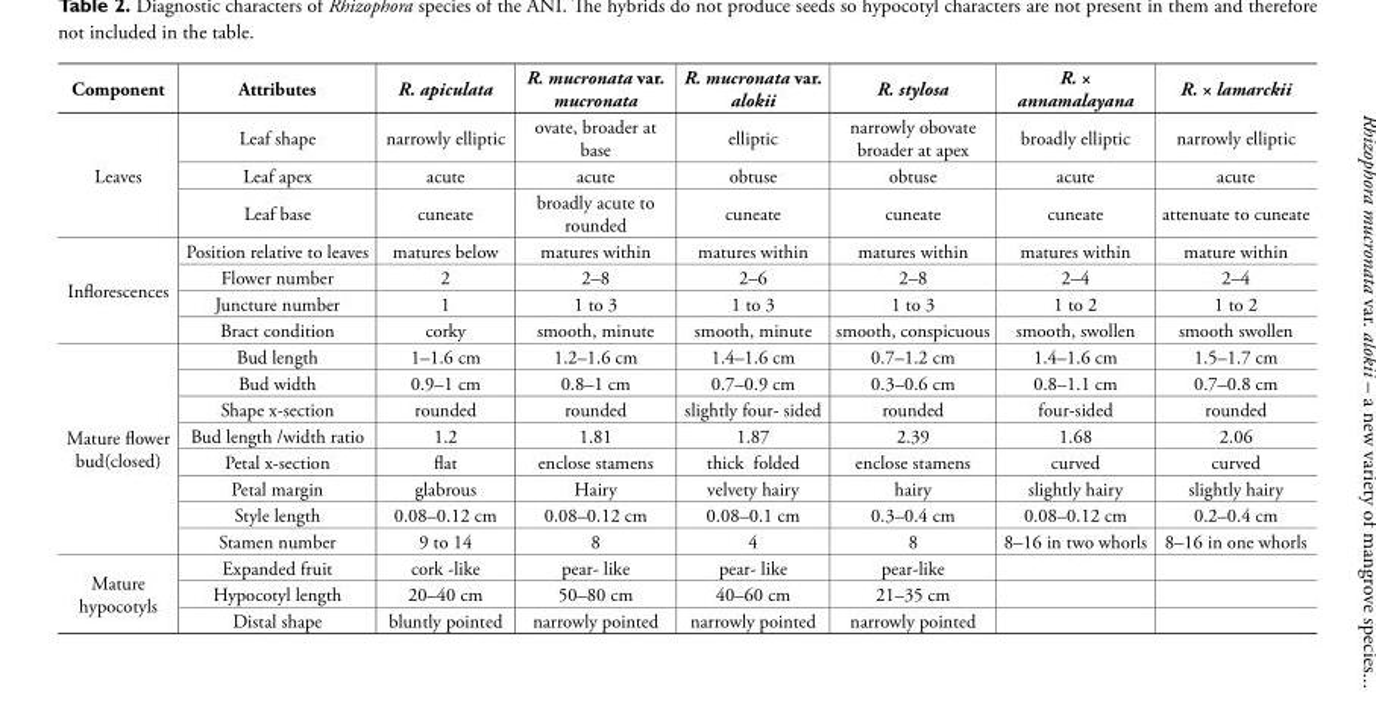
<table><thead><tr><td>Component</td><td>Attributes</td><td>R. apiculata</td><td>R. mucronata var. mucronata</td><td>R. mucronata var. alokii</td><td>R. stylosa</td><td>R. × annamalayana</td><td>R. × lamarckii</td></tr></thead><tbody><tr><td rowspan="3">Leaves</td><td>Leaf shape</td><td>narrowly elliptic</td><td>ovate, broader at base</td><td>elliptic</td><td>narrowly obovate broader at apex</td><td>broadly elliptic</td><td>narrowly elliptic</td></tr><tr><td>Leaf apex</td><td>acute</td><td>acute</td><td>obtuse</td><td>obtuse</td><td>acute</td><td>acute</td></tr><tr><td>Leaf base</td><td>cuneate</td><td>broadly acute to rounded</td><td>cuneate</td><td>cuneate</td><td>cuneate</td><td>attenuate to cuneate</td></tr><tr><td rowspan="4">Infl orescences</td><td>Position relative to leaves</td><td>matures below</td><td>matures within</td><td>matures within</td><td>matures within</td><td>matures within</td><td>mature within</td></tr><tr><td>Flower number</td><td>2</td><td>2–8</td><td>2–6</td><td>2–8</td><td>2–4</td><td>2–4</td></tr><tr><td>Juncture number</td><td>1</td><td>1 to 3</td><td>1 to 3</td><td>1 to 3</td><td>1 to 2</td><td>1 to 2</td></tr><tr><td>Bract condition</td><td>corky</td><td>smooth, minute</td><td>smooth, minute</td><td>smooth, conspicuous</td><td>smooth, swollen</td><td>smooth swollen</td></tr><tr><td rowspan="8">Mature fl ower bud(closed)</td><td>Bud length</td><td>1–1.6 cm</td><td>1.2–1.6 cm</td><td>1.4–1.6 cm</td><td>0.7–1.2 cm</td><td>1.4–1.6 cm</td><td>1.5–1.7 cm</td></tr><tr><td>Bud width</td><td>0.9–1 cm</td><td>0.8–1 cm</td><td>0.7–0.9 cm</td><td>0.3–0.6 cm</td><td>0.8–1.1 cm</td><td>0.7–0.8 cm</td></tr><tr><td>Shape x-section</td><td>rounded</td><td>rounded</td><td>slightly four- sided</td><td>rounded</td><td>four-sided</td><td>rounded</td></tr><tr><td>Bud length /width ratio</td><td>1.2</td><td>1.81</td><td>1.87</td><td>2.39</td><td>1.68</td><td>2.06</td></tr><tr><td>Petal x-section</td><td>fl at</td><td>enclose stamens</td><td>thick folded</td><td>enclose stamens</td><td>curved</td><td>curved</td></tr><tr><td>Petal margin</td><td>glabrous</td><td>Hairy</td><td>velvety hairy</td><td>hairy</td><td>slightly hairy</td><td>slightly hairy</td></tr><tr><td>Style length</td><td>0.08–0.12 cm</td><td>0.08–0.12 cm</td><td>0.08–0.1 cm</td><td>0.3–0.4 cm</td><td>0.08–0.12 cm</td><td>0.2–0.4 cm</td></tr><tr><td>Stamen number</td><td>9 to 14</td><td>8</td><td>4</td><td>8</td><td>8–16 in two whorls</td><td>8–16 in one whorls</td></tr><tr><td rowspan="3">Mature hypocotyls</td><td>Expanded fruit</td><td>cork -like</td><td>pear- like</td><td>pear- like</td><td>pear-like</td><td></td><td></td></tr><tr><td>Hypocotyl length</td><td>20–40 cm</td><td>50–80 cm</td><td>40–60 cm</td><td>21–35 cm</td><td></td><td></td></tr><tr><td>Distal shape</td><td>bluntly pointed</td><td>narrowly pointed</td><td>narrowly pointed</td><td>narrowly pointed</td><td></td><td></td></tr></tbody></table>